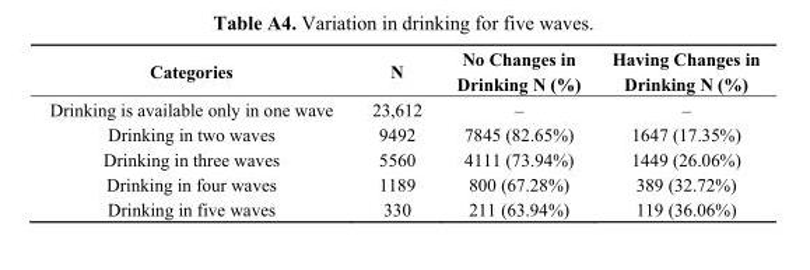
<table><thead><tr><td>Categories</td><td>N</td><td>No Changes in Drinking N (%)</td><td>Having Changes in Drinking N (%)</td></tr></thead><tbody><tr><td>Drinking is available only in one wave</td><td>23,612</td><td>–</td><td>–</td></tr><tr><td>Drinking in two waves</td><td>9492</td><td>7845 (82.65%)</td><td>1647 (17.35%)</td></tr><tr><td>Drinking in three waves</td><td>5560</td><td>4111 (73.94%)</td><td>1449 (26.06%)</td></tr><tr><td>Drinking in four waves</td><td>1189</td><td>800 (67.28%)</td><td>389 (32.72%)</td></tr><tr><td>Drinking in five waves</td><td>330</td><td>211 (63.94%)</td><td>119 (36.06%)</td></tr></tbody></table>